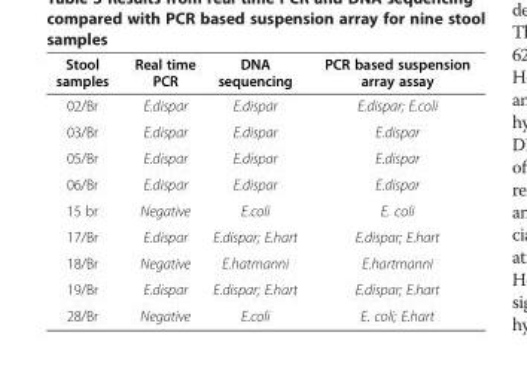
<table><thead><tr><td>Stool samples</td><td>Real time PCR</td><td>DNA sequencing</td><td>PCR based suspension array assay</td></tr></thead><tbody><tr><td>02/Br</td><td>E.dispar</td><td>E.dispar</td><td>E.dispar; E.coli</td></tr><tr><td>03/Br</td><td>E.dispar</td><td>E.dispar</td><td>E.dispar</td></tr><tr><td>05/Br</td><td>E.dispar</td><td>E.dispar</td><td>E.dispar</td></tr><tr><td>06/Br</td><td>E.dispar</td><td>E.dispar</td><td>E.dispar</td></tr><tr><td>15 br</td><td>Negative</td><td>E.coli</td><td>E. coli</td></tr><tr><td>17/Br</td><td>E.dispar</td><td>E.dispar; E.hart</td><td>E.dispar; E.hart</td></tr><tr><td>18/Br</td><td>Negative</td><td>E.hatmanni</td><td>E.hartmanni</td></tr><tr><td>19/Br</td><td>E.dispar</td><td>E.dispar; E.hart</td><td>E.dispar; E.hart</td></tr><tr><td>28/Br</td><td>Negative</td><td>E.coli</td><td>E. coli; E.hart</td></tr></tbody></table>